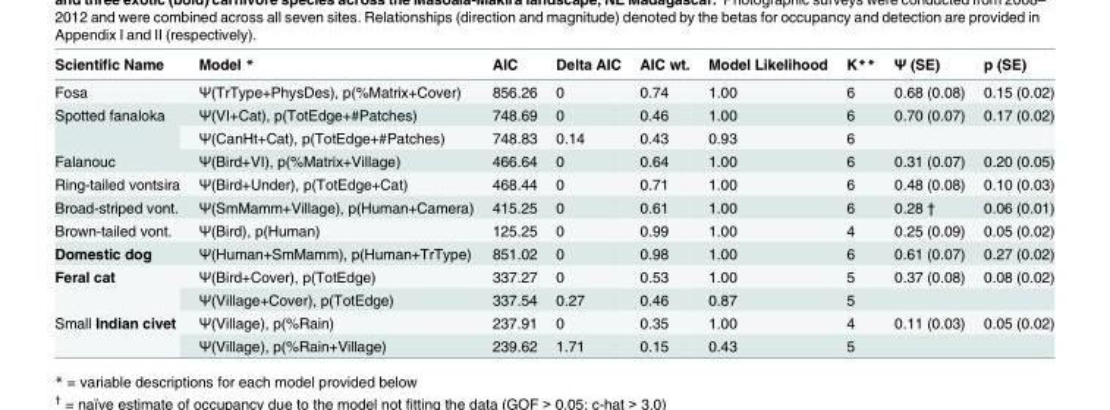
<table><thead><tr><td>Scientific Name</td><td>Model *</td><td>AIC</td><td>Delta AIC</td><td>AIC wt.</td><td>Model Likelihood</td><td>K**</td><td>Ψ (SE)</td><td>p (SE)</td></tr></thead><tbody><tr><td>Fosa</td><td>Ψ(TrType+PhysDes), p(%Matrix+Cover)</td><td>856.26</td><td>0</td><td>0.74</td><td>1.00</td><td>6</td><td>0.68 (0.08)</td><td>0.15 (0.02)</td></tr><tr><td rowspan="2">Spotted fanaloka</td><td>Ψ(VI+Cat), p(TotEdge+#Patches)</td><td>748.69</td><td>0</td><td>0.46</td><td>1.00</td><td>6</td><td>0.70 (0.07)</td><td>0.17 (0.02)</td></tr><tr><td>Ψ(CanHt+Cat), p(TotEdge+#Patches)</td><td>748.83</td><td>0.14</td><td>0.43</td><td>0.93</td><td>6</td><td></td><td></td></tr><tr><td>Falanouc</td><td>Ψ(Bird+VI), p(%Matrix+Village)</td><td>466.64</td><td>0</td><td>0.64</td><td>1.00</td><td>6</td><td>0.31 (0.07)</td><td>0.20 (0.05)</td></tr><tr><td>Ring-tailed vontsira</td><td>Ψ(Bird+Under), p(TotEdge+Cat)</td><td>468.44</td><td>0</td><td>0.71</td><td>1.00</td><td>6</td><td>0.48 (0.08)</td><td>0.10 (0.03)</td></tr><tr><td>Broad-striped vont.</td><td>Ψ(SmMamm+Village), p(Human+Camera)</td><td>415.25</td><td>0</td><td>0.61</td><td>1.00</td><td>6</td><td>0.28 †</td><td>0.06 (0.01)</td></tr><tr><td>Brown-tailed vont.</td><td>Ψ(Bird), p(Human)</td><td>125.25</td><td>0</td><td>0.99</td><td>1.00</td><td>4</td><td>0.25 (0.09)</td><td>0.05 (0.02)</td></tr><tr><td>Domestic dog</td><td>Ψ(Human+SmMamm), p(Human+TrType)</td><td>851.02</td><td>0</td><td>0.98</td><td>1.00</td><td>6</td><td>0.61 (0.07)</td><td>0.27 (0.02)</td></tr><tr><td rowspan="2">Feral cat</td><td>Ψ(Bird+Cover), p(TotEdge)</td><td>337.27</td><td>0</td><td>0.53</td><td>1.00</td><td>5</td><td>0.37 (0.08)</td><td>0.08 (0.02)</td></tr><tr><td>Ψ(Village+Cover), p(TotEdge)</td><td>337.54</td><td>0.27</td><td>0.46</td><td>0.87</td><td>5</td><td></td><td></td></tr><tr><td rowspan="2">Small Indian civet</td><td>Ψ(Village), p(%Rain)</td><td>237.91</td><td>0</td><td>0.35</td><td>1.00</td><td>4</td><td>0.11 (0.03)</td><td>0.05 (0.02)</td></tr><tr><td>Ψ(Village), p(%Rain+Village)</td><td>239.62</td><td>1.71</td><td>0.15</td><td>0.43</td><td>5</td><td></td><td></td></tr></tbody></table>